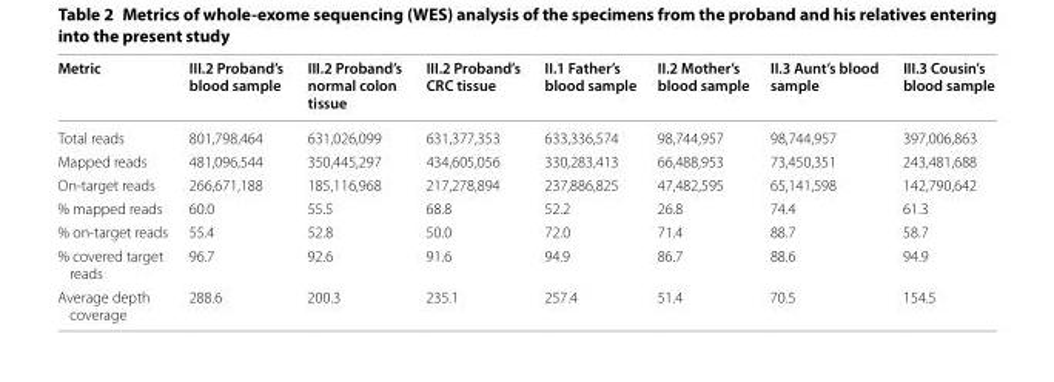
<table><thead><tr><td>Metric</td><td>III.2 Proband’s blood sample</td><td>III.2 Proband’s normal colon tissue</td><td>III.2 Proband’s CRC tissue</td><td>II.1 Father’s blood sample</td><td>II.2 Mother’s blood sample</td><td>II.3 Aunt’s blood sample</td><td>III.3 Cousin’s blood sample</td></tr></thead><tbody><tr><td>Total reads</td><td>801,798,464</td><td>631,026,099</td><td>631,377,353</td><td>633,336,574</td><td>98,744,957</td><td>98,744,957</td><td>397,006,863</td></tr><tr><td>Mapped reads</td><td>481,096,544</td><td>350,445,297</td><td>434,605,056</td><td>330,283,413</td><td>66,488,953</td><td>73,450,351</td><td>243,481,688</td></tr><tr><td>On-target reads</td><td>266,671,188</td><td>185,116,968</td><td>217,278,894</td><td>237,886,825</td><td>47,482,595</td><td>65,141,598</td><td>142,790,642</td></tr><tr><td>% mapped reads</td><td>60.0</td><td>55.5</td><td>68.8</td><td>52.2</td><td>26.8</td><td>74.4</td><td>61.3</td></tr><tr><td>% on-target reads</td><td>55.4</td><td>52.8</td><td>50.0</td><td>72.0</td><td>71.4</td><td>88.7</td><td>58.7</td></tr><tr><td>% covered target reads</td><td>96.7</td><td>92.6</td><td>91.6</td><td>94.9</td><td>86.7</td><td>88.6</td><td>94.9</td></tr><tr><td>Average depth coverage</td><td>288.6</td><td>200.3</td><td>235.1</td><td>257.4</td><td>51.4</td><td>70.5</td><td>154.5</td></tr></tbody></table>